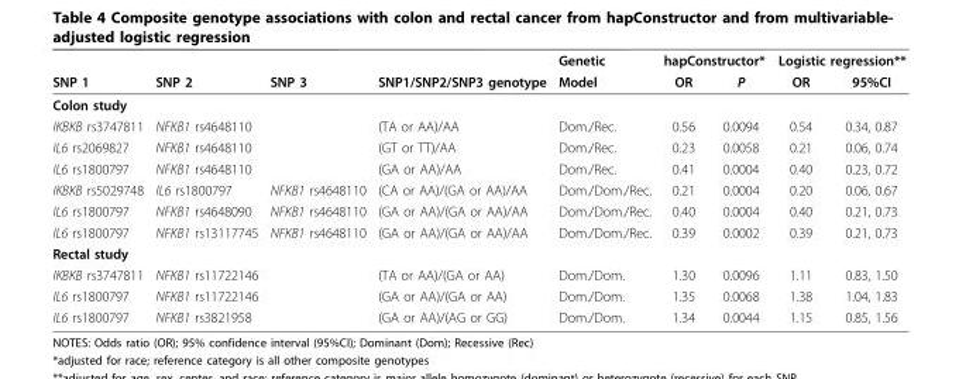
<table><thead><tr><td rowspan="2">SNP 1</td><td rowspan="2">SNP 2</td><td rowspan="2">SNP 3</td><td rowspan="2">SNP1/SNP2/SNP3 genotype</td><td rowspan="2">Genetic Model</td><td colspan="2">hapConstructor*</td><td colspan="2">Logistic regression**</td></tr><tr><td>OR</td><td>P</td><td>OR</td><td>95%CI</td></tr></thead><tbody><tr><td colspan="9">Colon study</td></tr><tr><td>IKBKB rs3747811</td><td>NFKB1 rs4648110</td><td></td><td>(TA or AA)/AA</td><td>Dom./Rec.</td><td>0.56</td><td>0.0094</td><td>0.54</td><td>0.34, 0.87</td></tr><tr><td>IL6 rs2069827</td><td>NFKB1 rs4648110</td><td></td><td>(GT or TT)/AA</td><td>Dom./Rec.</td><td>0.23</td><td>0.0058</td><td>0.21</td><td>0.06, 0.74</td></tr><tr><td>IL6 rs1800797</td><td>NFKB1 rs4648110</td><td></td><td>(GA or AA)/AA</td><td>Dom./Rec.</td><td>0.41</td><td>0.0004</td><td>0.40</td><td>0.23, 0.72</td></tr><tr><td>IKBKB rs5029748</td><td>IL6 rs1800797</td><td>NFKB1 rs4648110</td><td>(CA or AA)/(GA or AA)/AA</td><td>Dom./Dom./Rec.</td><td>0.21</td><td>0.0004</td><td>0.20</td><td>0.06, 0.67</td></tr><tr><td>IL6 rs1800797</td><td>NFKB1 rs4648090</td><td>NFKB1 rs4648110</td><td>(GA or AA)/(GA or AA)/AA</td><td>Dom./Dom./Rec.</td><td>0.40</td><td>0.0004</td><td>0.40</td><td>0.21, 0.73</td></tr><tr><td>IL6 rs1800797</td><td>NFKB1 rs13117745</td><td>NFKB1 rs4648110</td><td>(GA or AA)/(GA or AA)/AA</td><td>Dom./Dom./Rec.</td><td>0.39</td><td>0.0002</td><td>0.39</td><td>0.21, 0.73</td></tr><tr><td colspan="9">Rectal study</td></tr><tr><td>IKBKB rs3747811</td><td>NFKB1 rs11722146</td><td></td><td>(TA or AA)/(GA or AA)</td><td>Dom./Dom.</td><td>1.30</td><td>0.0096</td><td>1.11</td><td>0.83, 1.50</td></tr><tr><td>IL6 rs1800797</td><td>NFKB1 rs11722146</td><td></td><td>(GA or AA)/(GA or AA)</td><td>Dom./Dom.</td><td>1.35</td><td>0.0068</td><td>1.38</td><td>1.04, 1.83</td></tr><tr><td>IL6 rs1800797</td><td>NFKB1 rs3821958</td><td></td><td>(GA or AA)/(AG or GG)</td><td>Dom./Dom.</td><td>1.34</td><td>0.0044</td><td>1.15</td><td>0.85, 1.56</td></tr></tbody></table>